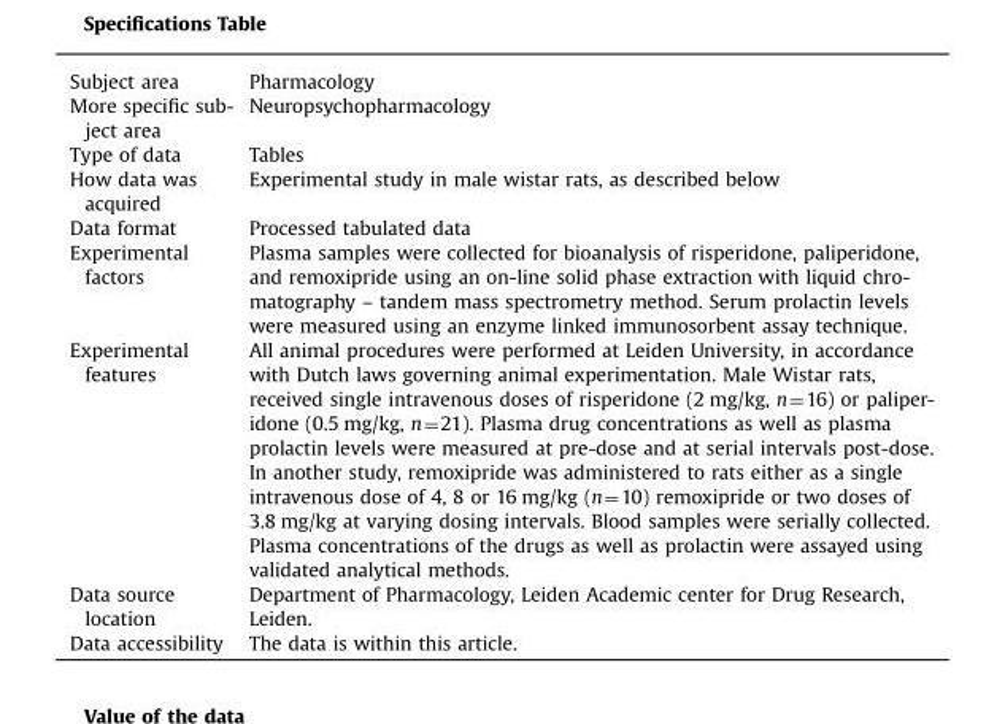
<table><tbody><tr><td>Subject area</td><td>Pharmacology</td></tr><tr><td>More specific sub- ject area</td><td>Neuropsychopharmacology</td></tr><tr><td>Type of data</td><td>Tables</td></tr><tr><td>How data was acquired</td><td>Experimental study in male wistar rats, as described below</td></tr><tr><td>Data format</td><td>Processed tabulated data</td></tr><tr><td>Experimental factors</td><td>Plasma samples were collected for bioanalysis of risperidone, paliperidone, and remoxipride using an on-line solid phase extraction with liquid chro- matography – tandem mass spectrometry method. Serum prolactin levels were measured using an enzyme linked immunosorbent assay technique.</td></tr><tr><td>Experimental features</td><td>All animal procedures were performed at Leiden University, in accordance with Dutch laws governing animal experimentation. Male Wistar rats, received single intravenous doses of risperidone (2 mg/kg, n¼16) or paliper- idone (0.5 mg/kg, n¼21). Plasma drug concentrations as well as plasma prolactin levels were measured at pre-dose and at serial intervals post-dose. In another study, remoxipride was administered to rats either as a single intravenous dose of 4, 8 or 16 mg/kg (n¼10) remoxipride or two doses of 3.8 mg/kg at varying dosing intervals. Blood samples were serially collected. Plasma concentrations of the drugs as well as prolactin were assayed using validated analytical methods.</td></tr><tr><td>Data source location</td><td>Department of Pharmacology, Leiden Academic center for Drug Research, Leiden.</td></tr><tr><td>Data accessibility</td><td>The data is within this article.</td></tr></tbody></table>